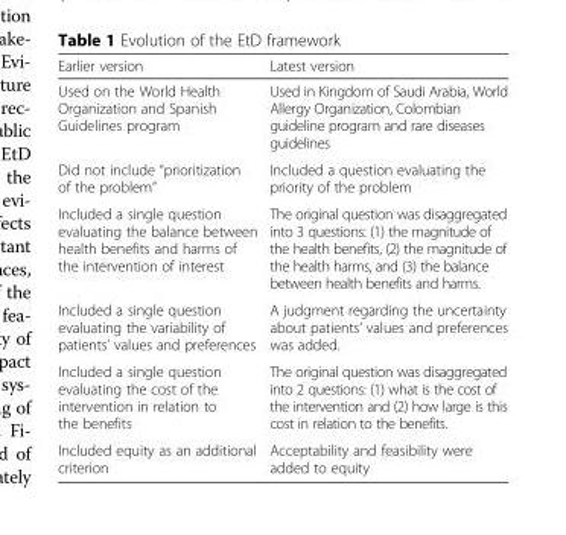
<table><thead><tr><td>Earlier version</td><td>Latest version</td></tr></thead><tbody><tr><td>Used on the World Health Organization and Spanish Guidelines program</td><td>Used in Kingdom of Saudi Arabia, World Allergy Organization, Colombian guideline program and rare diseases guidelines</td></tr><tr><td>Did not include “prioritization of the problem”</td><td>Included a question evaluating the priority of the problem</td></tr><tr><td>Included a single question evaluating the balance between health benefits and harms of the intervention of interest</td><td>The original question was disaggregated into 3 questions: (1) the magnitude of the health benefits, (2) the magnitude of the health harms, and (3) the balance between health benefits and harms.</td></tr><tr><td>Included a single question evaluating the variability of patients’ values and preferences</td><td>A judgment regarding the uncertainty about patients’ values and preferences was added.</td></tr><tr><td>Included a single question evaluating the cost of the intervention in relation to the benefits</td><td>The original question was disaggregated into 2 questions: (1) what is the cost of the intervention and (2) how large is this cost in relation to the benefits.</td></tr><tr><td>Included equity as an additional criterion</td><td>Acceptability and feasibility were added to equity</td></tr></tbody></table>